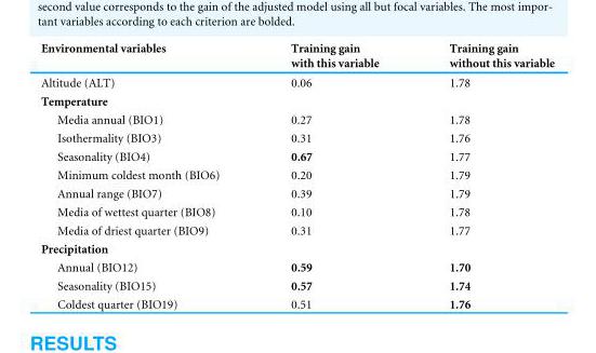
<table><thead><tr><td>Environmental variables</td><td>Training gain with this variable</td><td>Training gain without this variable</td></tr></thead><tbody><tr><td>Altitude (ALT)</td><td>0.06</td><td>1.78</td></tr><tr><td colspan="3">Temperature</td></tr><tr><td>Media annual (BIO1)</td><td>0.27</td><td>1.78</td></tr><tr><td>Isothermality (BIO3)</td><td>0.31</td><td>1.76</td></tr><tr><td>Seasonality (BIO4)</td><td>0.67</td><td>1.77</td></tr><tr><td>Minimum coldest month (BIO6)</td><td>0.20</td><td>1.79</td></tr><tr><td>Annual range (BIO7)</td><td>0.39</td><td>1.79</td></tr><tr><td>Media of wettest quarter (BIO8)</td><td>0.10</td><td>1.78</td></tr><tr><td>Media of driest quarter (BIO9)</td><td>0.31</td><td>1.77</td></tr><tr><td colspan="3">Precipitation</td></tr><tr><td>Annual (BIO12)</td><td>0.59</td><td>1.70</td></tr><tr><td>Seasonality (BIO15)</td><td>0.57</td><td>1.74</td></tr><tr><td>Coldest quarter (BIO19)</td><td>0.51</td><td>1.76</td></tr></tbody></table>